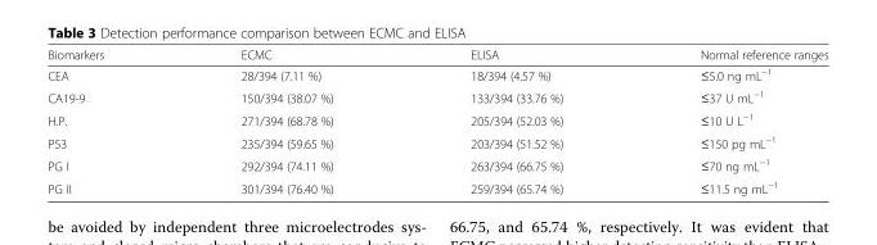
<table><thead><tr><td>Biomarkers</td><td>ECMC</td><td>ELISA</td><td>Normal reference ranges</td></tr></thead><tbody><tr><td>CEA</td><td>28/394 (7.11 %)</td><td>18/394 (4.57 %)</td><td>≤5.0 ng mL<sup>−1</sup></td></tr><tr><td>CA19-9</td><td>150/394 (38.07 %)</td><td>133/394 (33.76 %)</td><td>≤37 U mL<sup>−1</sup></td></tr><tr><td>H.P.</td><td>271/394 (68.78 %)</td><td>205/394 (52.03 %)</td><td>≤10 U L<sup>−1</sup></td></tr><tr><td>P53</td><td>235/394 (59.65 %)</td><td>203/394 (51.52 %)</td><td>≤150 pg mL<sup>−1</sup></td></tr><tr><td>PG I</td><td>292/394 (74.11 %)</td><td>263/394 (66.75 %)</td><td>≤70 ng mL<sup>−1</sup></td></tr><tr><td>PG II</td><td>301/394 (76.40 %)</td><td>259/394 (65.74 %)</td><td>≤11.5 ng mL<sup>−1</sup></td></tr></tbody></table>